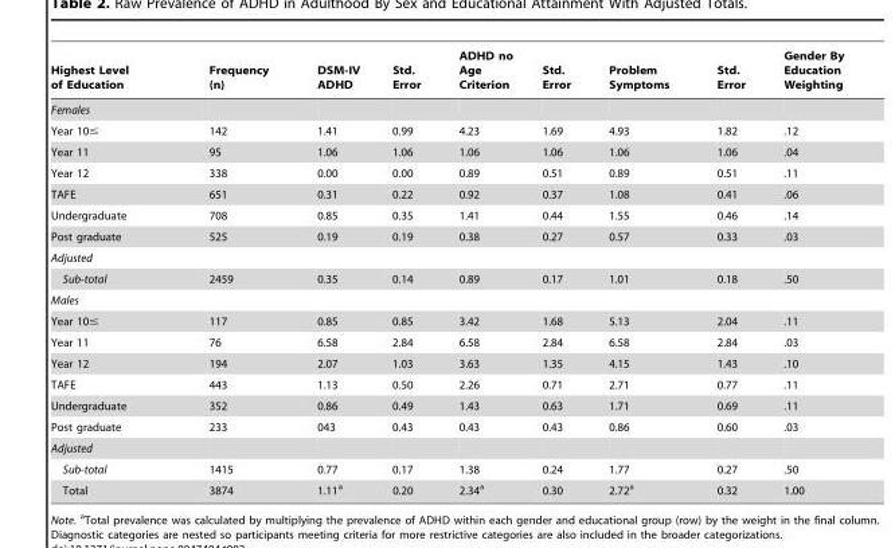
<table><thead><tr><td>Highest Level of Education</td><td>Frequency (n)</td><td>DSM-IV ADHD</td><td>Std. Error</td><td>ADHD no Age Criterion</td><td>Std. Error</td><td>Problem Symptoms</td><td>Std. Error</td><td>Gender By Education Weighting</td></tr></thead><tbody><tr><td colspan="9">Females</td></tr><tr><td>Year 10≤</td><td>142</td><td>1.41</td><td>0.99</td><td>4.23</td><td>1.69</td><td>4.93</td><td>1.82</td><td>.12</td></tr><tr><td>Year 11</td><td>95</td><td>1.06</td><td>1.06</td><td>1.06</td><td>1.06</td><td>1.06</td><td>1.06</td><td>.04</td></tr><tr><td>Year 12</td><td>338</td><td>0.00</td><td>0.00</td><td>0.89</td><td>0.51</td><td>0.89</td><td>0.51</td><td>.11</td></tr><tr><td>TAFE</td><td>651</td><td>0.31</td><td>0.22</td><td>0.92</td><td>0.37</td><td>1.08</td><td>0.41</td><td>.06</td></tr><tr><td>Undergraduate</td><td>708</td><td>0.85</td><td>0.35</td><td>1.41</td><td>0.44</td><td>1.55</td><td>0.46</td><td>.14</td></tr><tr><td>Post graduate</td><td>525</td><td>0.19</td><td>0.19</td><td>0.38</td><td>0.27</td><td>0.57</td><td>0.33</td><td>.03</td></tr><tr><td colspan="9">Adjusted</td></tr><tr><td>Sub-total</td><td>2459</td><td>0.35</td><td>0.14</td><td>0.89</td><td>0.17</td><td>1.01</td><td>0.18</td><td>.50</td></tr><tr><td colspan="9">Males</td></tr><tr><td>Year 10≤</td><td>117</td><td>0.85</td><td>0.85</td><td>3.42</td><td>1.68</td><td>5.13</td><td>2.04</td><td>.11</td></tr><tr><td>Year 11</td><td>76</td><td>6.58</td><td>2.84</td><td>6.58</td><td>2.84</td><td>6.58</td><td>2.84</td><td>.03</td></tr><tr><td>Year 12</td><td>194</td><td>2.07</td><td>1.03</td><td>3.63</td><td>1.35</td><td>4.15</td><td>1.43</td><td>.10</td></tr><tr><td>TAFE</td><td>443</td><td>1.13</td><td>0.50</td><td>2.26</td><td>0.71</td><td>2.71</td><td>0.77</td><td>.11</td></tr><tr><td>Undergraduate</td><td>352</td><td>0.86</td><td>0.49</td><td>1.43</td><td>0.63</td><td>1.71</td><td>0.69</td><td>.11</td></tr><tr><td>Post graduate</td><td>233</td><td>043</td><td>0.43</td><td>0.43</td><td>0.43</td><td>0.86</td><td>0.60</td><td>.03</td></tr><tr><td colspan="9">Adjusted</td></tr><tr><td>Sub-total</td><td>1415</td><td>0.77</td><td>0.17</td><td>1.38</td><td>0.24</td><td>1.77</td><td>0.27</td><td>.50</td></tr><tr><td>Total</td><td>3874</td><td>1.11<sup>a</sup></td><td>0.20</td><td>2.34<sup>a</sup></td><td>0.30</td><td>2.72<sup>a</sup></td><td>0.32</td><td>1.00</td></tr></tbody></table>